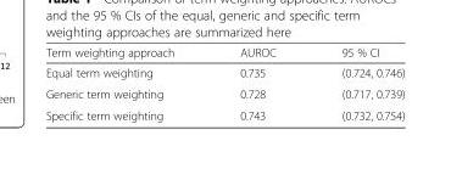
<table><thead><tr><td>Term weighting approach</td><td>AUROC</td><td>95 % CI</td></tr></thead><tbody><tr><td>Equal term weighting</td><td>0.735</td><td>(0.724, 0.746)</td></tr><tr><td>Generic term weighting</td><td>0.728</td><td>(0.717, 0.739)</td></tr><tr><td>Specific term weighting</td><td>0.743</td><td>(0.732, 0.754)</td></tr></tbody></table>